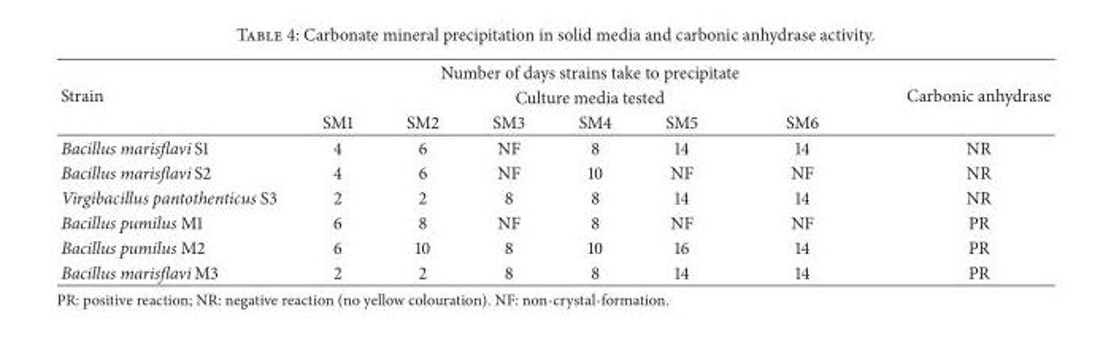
<table><thead><tr><td rowspan="3">Strain</td><td rowspan="2" colspan="6">Number of days strains take to precipitate Culture media tested</td><td rowspan="3">Carbonic anhydrase</td></tr><tr></tr><tr><td>SM1</td><td>SM2</td><td>SM3</td><td>SM4</td><td>SM5</td><td>SM6</td></tr></thead><tbody><tr><td>Bacillus marisflavi S1</td><td>4</td><td>6</td><td>NF</td><td>8</td><td>14</td><td>14</td><td>NR</td></tr><tr><td>Bacillus marisflavi S2</td><td>4</td><td>6</td><td>NF</td><td>10</td><td>NF</td><td>NF</td><td>NR</td></tr><tr><td>Virgibacillus pantothenticus S3</td><td>2</td><td>2</td><td>8</td><td>8</td><td>14</td><td>14</td><td>NR</td></tr><tr><td>Bacillus pumilus M1</td><td>6</td><td>8</td><td>NF</td><td>8</td><td>NF</td><td>NF</td><td>PR</td></tr><tr><td>Bacillus pumilus M2</td><td>6</td><td>10</td><td>8</td><td>10</td><td>16</td><td>14</td><td>PR</td></tr><tr><td>Bacillus marisflavi M3</td><td>2</td><td>2</td><td>8</td><td>8</td><td>14</td><td>14</td><td>PR</td></tr></tbody></table>